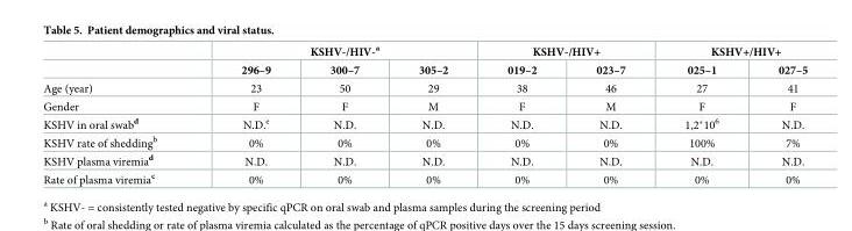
<table><thead><tr><td rowspan="2"></td><td colspan="3">KSHV-/HIV-<sup>a</sup></td><td colspan="2">KSHV-/HIV+</td><td colspan="2">KSHV+/HIV+</td></tr><tr><td>296–9</td><td>300–7</td><td>305–2</td><td>019–2</td><td>023–7</td><td>025–1</td><td>027–5</td></tr></thead><tbody><tr><td>Age (year)</td><td>23</td><td>50</td><td>29</td><td>38</td><td>46</td><td>27</td><td>41</td></tr><tr><td>Gender</td><td>F</td><td>F</td><td>M</td><td>F</td><td>M</td><td>F</td><td>F</td></tr><tr><td>KSHV in oral swab<sup>d</sup></td><td>N.D.<sup>e</sup></td><td>N.D.</td><td>N.D.</td><td>N.D.</td><td>N.D.</td><td>1,2*10<sup>6</sup></td><td>N.D.</td></tr><tr><td>KSHV rate of shedding<sup>b</sup></td><td>0%</td><td>0%</td><td>0%</td><td>0%</td><td>0%</td><td>100%</td><td>7%</td></tr><tr><td>KSHV plasma viremia<sup>d</sup></td><td>N.D.</td><td>N.D.</td><td>N.D.</td><td>N.D.</td><td>N.D.</td><td>N.D.</td><td>N.D.</td></tr><tr><td>Rate of plasma viremia<sup>c</sup></td><td>0%</td><td>0%</td><td>0%</td><td>0%</td><td>0%</td><td>0%</td><td>0%</td></tr></tbody></table>